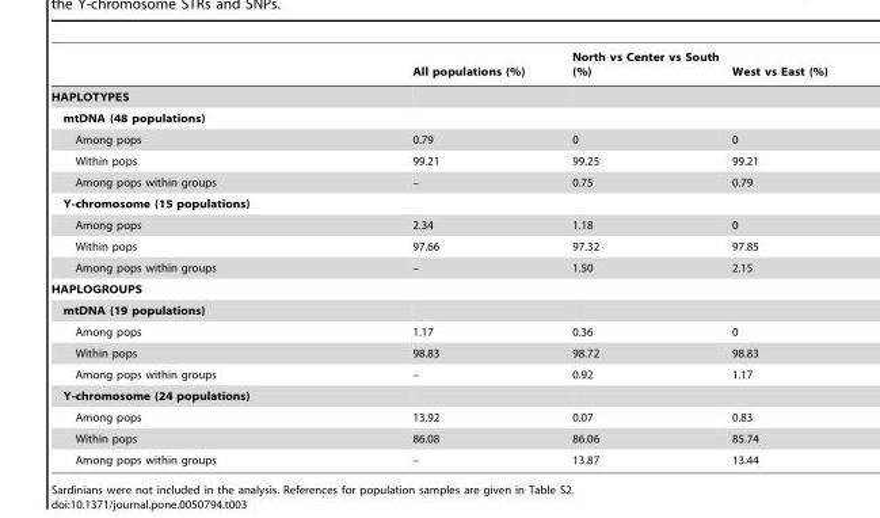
<table><thead><tr><td></td><td>All populations (%)</td><td>North vs Center vs South (%)</td><td>West vs East (%)</td></tr></thead><tbody><tr><td colspan="4">HAPLOTYPES</td></tr><tr><td colspan="4">mtDNA (48 populations)</td></tr><tr><td>Among pops</td><td>0.79</td><td>0</td><td>0</td></tr><tr><td>Within pops</td><td>99.21</td><td>99.25</td><td>99.21</td></tr><tr><td>Among pops within groups</td><td>–</td><td>0.75</td><td>0.79</td></tr><tr><td colspan="4">Y-chromosome (15 populations)</td></tr><tr><td>Among pops</td><td>2.34</td><td>1.18</td><td>0</td></tr><tr><td>Within pops</td><td>97.66</td><td>97.32</td><td>97.85</td></tr><tr><td>Among pops within groups</td><td>–</td><td>1.50</td><td>2.15</td></tr><tr><td colspan="4">HAPLOGROUPS</td></tr><tr><td colspan="4">mtDNA (19 populations)</td></tr><tr><td>Among pops</td><td>1.17</td><td>0.36</td><td>0</td></tr><tr><td>Within pops</td><td>98.83</td><td>98.72</td><td>98.83</td></tr><tr><td>Among pops within groups</td><td>–</td><td>0.92</td><td>1.17</td></tr><tr><td colspan="4">Y-chromosome (24 populations)</td></tr><tr><td>Among pops</td><td>13.92</td><td>0.07</td><td>0.83</td></tr><tr><td>Within pops</td><td>86.08</td><td>86.06</td><td>85.74</td></tr><tr><td>Among pops within groups</td><td>–</td><td>13.87</td><td>13.44</td></tr></tbody></table>